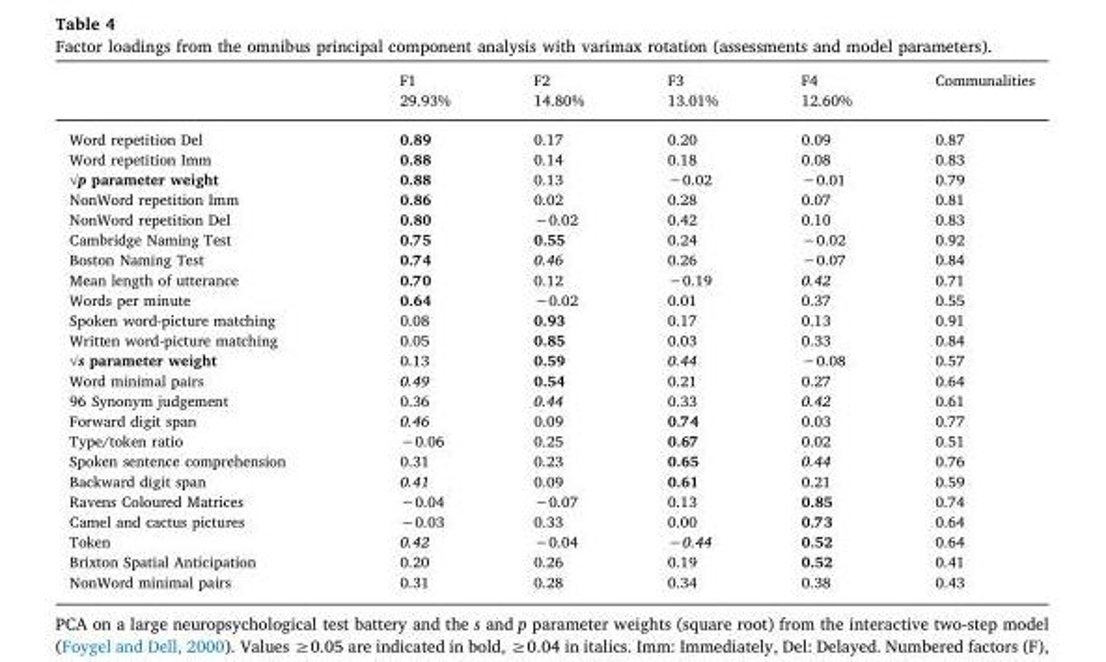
<table><thead><tr><td></td><td>F1 29.93%</td><td>F2 14.80%</td><td>F3 13.01%</td><td>F4 12.60%</td><td>Communalities</td></tr></thead><tbody><tr><td>Word repetition Del</td><td>0.89</td><td>0.17</td><td>0.20</td><td>0.09</td><td>0.87</td></tr><tr><td>Word repetition Imm</td><td>0.88</td><td>0.14</td><td>0.18</td><td>0.08</td><td>0.83</td></tr><tr><td>√p parameter weight</td><td>0.88</td><td>0.13</td><td>−0.02</td><td>−0.01</td><td>0.79</td></tr><tr><td>NonWord repetition Imm</td><td>0.86</td><td>0.02</td><td>0.28</td><td>0.07</td><td>0.81</td></tr><tr><td>NonWord repetition Del</td><td>0.80</td><td>−0.02</td><td>0.42</td><td>0.10</td><td>0.83</td></tr><tr><td>Cambridge Naming Test</td><td>0.75</td><td>0.55</td><td>0.24</td><td>−0.02</td><td>0.92</td></tr><tr><td>Boston Naming Test</td><td>0.74</td><td>0.46</td><td>0.26</td><td>−0.07</td><td>0.84</td></tr><tr><td>Mean length of utterance</td><td>0.70</td><td>0.12</td><td>−0.19</td><td>0.42</td><td>0.71</td></tr><tr><td>Words per minute</td><td>0.64</td><td>−0.02</td><td>0.01</td><td>0.37</td><td>0.55</td></tr><tr><td>Spoken word-picture matching</td><td>0.08</td><td>0.93</td><td>0.17</td><td>0.13</td><td>0.91</td></tr><tr><td>Written word-picture matching</td><td>0.05</td><td>0.85</td><td>0.03</td><td>0.33</td><td>0.84</td></tr><tr><td>√s parameter weight</td><td>0.13</td><td>0.59</td><td>0.44</td><td>−0.08</td><td>0.57</td></tr><tr><td>Word minimal pairs</td><td>0.49</td><td>0.54</td><td>0.21</td><td>0.27</td><td>0.64</td></tr><tr><td>96 Synonym judgement</td><td>0.36</td><td>0.44</td><td>0.33</td><td>0.42</td><td>0.61</td></tr><tr><td>Forward digit span</td><td>0.46</td><td>0.09</td><td>0.74</td><td>0.03</td><td>0.77</td></tr><tr><td>Type/token ratio</td><td>−0.06</td><td>0.25</td><td>0.67</td><td>0.02</td><td>0.51</td></tr><tr><td>Spoken sentence comprehension</td><td>0.31</td><td>0.23</td><td>0.65</td><td>0.44</td><td>0.76</td></tr><tr><td>Backward digit span</td><td>0.41</td><td>0.09</td><td>0.61</td><td>0.21</td><td>0.59</td></tr><tr><td>Ravens Coloured Matrices</td><td>−0.04</td><td>−0.07</td><td>0.13</td><td>0.85</td><td>0.74</td></tr><tr><td>Camel and cactus pictures</td><td>−0.03</td><td>0.33</td><td>0.00</td><td>0.73</td><td>0.64</td></tr><tr><td>Token</td><td>0.42</td><td>−0.04</td><td>−0.44</td><td>0.52</td><td>0.64</td></tr><tr><td>Brixton Spatial Anticipation</td><td>0.20</td><td>0.26</td><td>0.19</td><td>0.52</td><td>0.41</td></tr><tr><td>NonWord minimal pairs</td><td>0.31</td><td>0.28</td><td>0.34</td><td>0.38</td><td>0.43</td></tr></tbody></table>